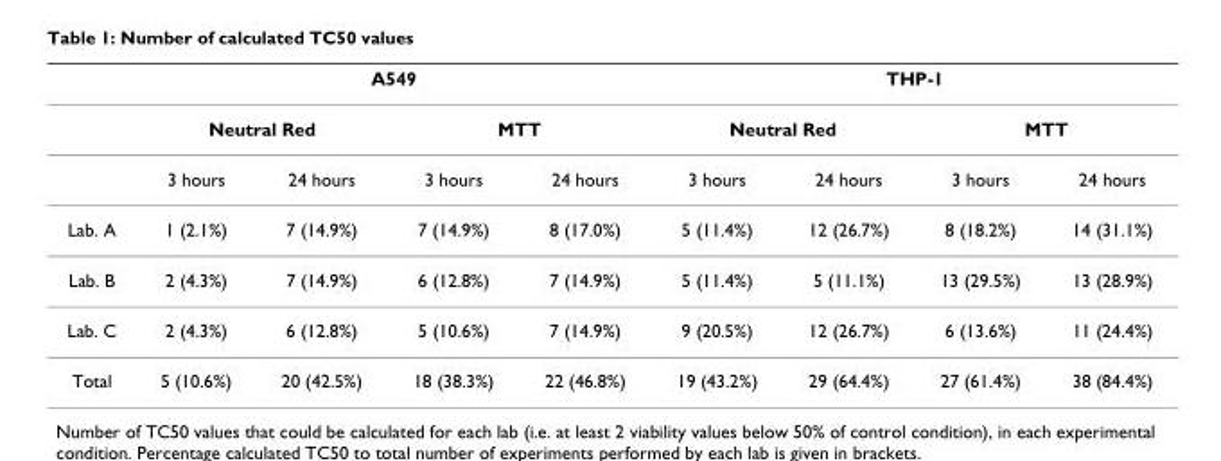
<table><thead><tr><td rowspan="3"></td><td colspan="4">A549</td><td colspan="4">THP-1</td></tr><tr><td colspan="2">Neutral Red</td><td colspan="2">MTT</td><td colspan="2">Neutral Red</td><td colspan="2">MTT</td></tr><tr><td>3 hours</td><td>24 hours</td><td>3 hours</td><td>24 hours</td><td>3 hours</td><td>24 hours</td><td>3 hours</td><td>24 hours</td></tr></thead><tbody><tr><td>Lab. A</td><td>1 (2.1%)</td><td>7 (14.9%)</td><td>7 (14.9%)</td><td>8 (17.0%)</td><td>5 (11.4%)</td><td>12 (26.7%)</td><td>8 (18.2%)</td><td>14 (31.1%)</td></tr><tr><td>Lab. B</td><td>2 (4.3%)</td><td>7 (14.9%)</td><td>6 (12.8%)</td><td>7 (14.9%)</td><td>5 (11.4%)</td><td>5 (11.1%)</td><td>13 (29.5%)</td><td>13 (28.9%)</td></tr><tr><td>Lab. C</td><td>2 (4.3%)</td><td>6 (12.8%)</td><td>5 (10.6%)</td><td>7 (14.9%)</td><td>9 (20.5%)</td><td>12 (26.7%)</td><td>6 (13.6%)</td><td>11 (24.4%)</td></tr><tr><td>Total</td><td>5 (10.6%)</td><td>20 (42.5%)</td><td>18 (38.3%)</td><td>22 (46.8%)</td><td>19 (43.2%)</td><td>29 (64.4%)</td><td>27 (61.4%)</td><td>38 (84.4%)</td></tr></tbody></table>